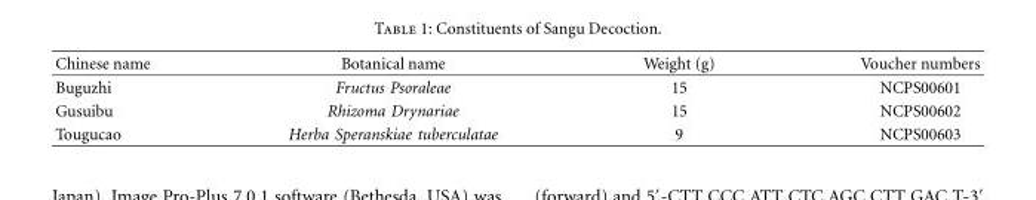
<table><thead><tr><td>Chinese name</td><td>Botanical name</td><td>Weight (g)</td><td>Voucher numbers</td></tr></thead><tbody><tr><td>Buguzhi</td><td>Fructus Psoraleae</td><td>15</td><td>NCPS00601</td></tr><tr><td>Gusuibu</td><td>Rhizoma Drynariae</td><td>15</td><td>NCPS00602</td></tr><tr><td>Tougucao</td><td>Herba Speranskiae tuberculatae</td><td>9</td><td>NCPS00603</td></tr></tbody></table>